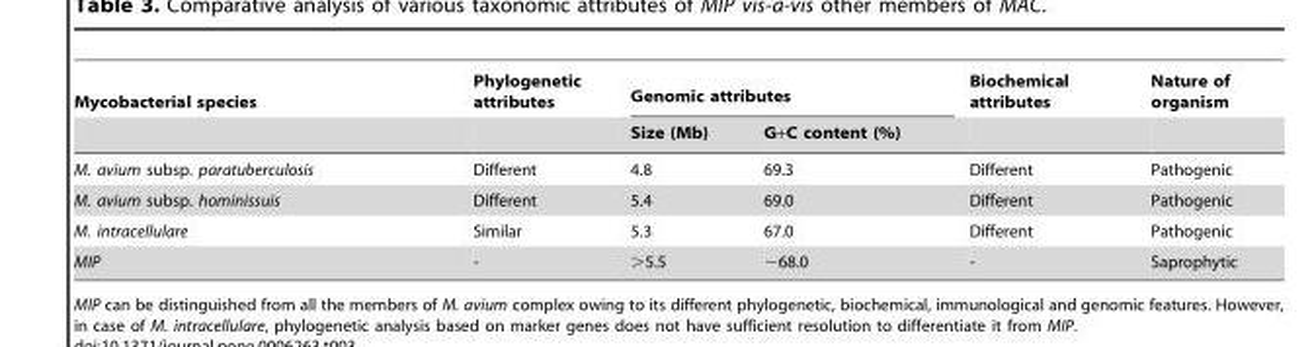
<table><thead><tr><td rowspan="2">Mycobacterial species</td><td rowspan="2">Phylogenetic attributes</td><td colspan="2">Genomic attributes</td><td rowspan="2">Biochemical attributes</td><td rowspan="2">Nature of organism</td></tr><tr><td>Size (Mb)</td><td>G+C content (%)</td></tr></thead><tbody><tr><td>M. avium subsp. paratuberculosis</td><td>Different</td><td>4.8</td><td>69.3</td><td>Different</td><td>Pathogenic</td></tr><tr><td>M. avium subsp. hominissuis</td><td>Different</td><td>5.4</td><td>69.0</td><td>Different</td><td>Pathogenic</td></tr><tr><td>M. intracellulare</td><td>Similar</td><td>5.3</td><td>67.0</td><td>Different</td><td>Pathogenic</td></tr><tr><td>MIP</td><td>-</td><td>&gt;5.5</td><td>∼68.0</td><td>-</td><td>Saprophytic</td></tr></tbody></table>